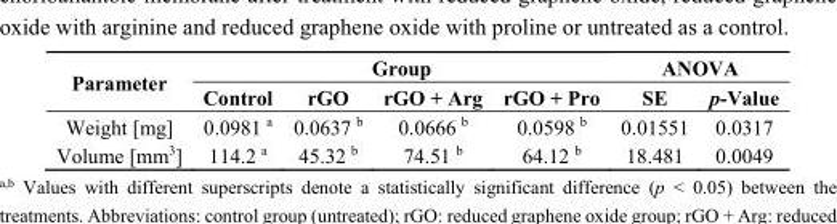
<table><thead><tr><td rowspan="2">Parameter</td><td colspan="4">Group</td><td colspan="2">ANOVA</td></tr><tr><td>Control</td><td>rGO</td><td>rGO + Arg</td><td>rGO + Pro</td><td>SE</td><td>p-Value</td></tr></thead><tbody><tr><td>Weight [mg]</td><td>0.0981 <sup>a</sup></td><td>0.0637 <sup>b</sup></td><td>0.0666 <sup>b</sup></td><td>0.0598 <sup>b</sup></td><td>0.01551</td><td>0.0317</td></tr><tr><td>Volume [mm<sup>3</sup>]</td><td>114.2 <sup>a</sup></td><td>45.32 <sup>b</sup></td><td>74.51 <sup>b</sup></td><td>64.12 <sup>b</sup></td><td>18.481</td><td>0.0049</td></tr></tbody></table>